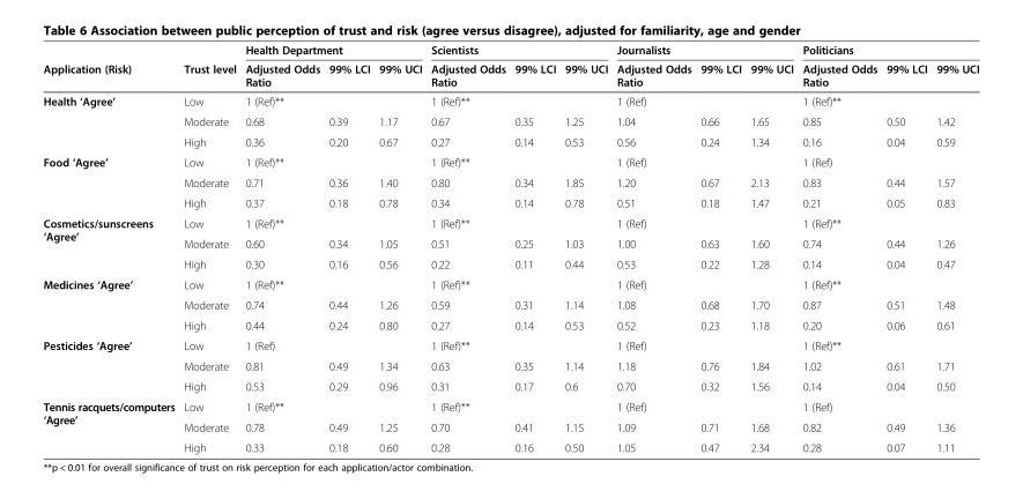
<table><thead><tr><td rowspan="2">Application (Risk)</td><td rowspan="2">Trust level</td><td colspan="3">Health Department</td><td colspan="3">Scientists</td><td colspan="3">Journalists</td><td colspan="3">Politicians</td></tr><tr><td>Adjusted Odds Ratio</td><td>99% LCI</td><td>99% UCI</td><td>Adjusted Odds Ratio</td><td>99% LCI</td><td>99% UCI</td><td>Adjusted Odds Ratio</td><td>99% LCI</td><td>99% UCI</td><td>Adjusted Odds Ratio</td><td>99% LCI</td><td>99% UCI</td></tr></thead><tbody><tr><td rowspan="3">Health ‘Agree’</td><td>Low</td><td>1 (Ref)**</td><td></td><td></td><td>1 (Ref)**</td><td></td><td></td><td>1 (Ref)</td><td></td><td></td><td>1 (Ref)**</td><td></td><td></td></tr><tr><td>Moderate</td><td>0.68</td><td>0.39</td><td>1.17</td><td>0.67</td><td>0.35</td><td>1.25</td><td>1.04</td><td>0.66</td><td>1.65</td><td>0.85</td><td>0.50</td><td>1.42</td></tr><tr><td>High</td><td>0.36</td><td>0.20</td><td>0.67</td><td>0.27</td><td>0.14</td><td>0.53</td><td>0.56</td><td>0.24</td><td>1.34</td><td>0.16</td><td>0.04</td><td>0.59</td></tr><tr><td rowspan="3">Food ‘Agree’</td><td>Low</td><td>1 (Ref)**</td><td></td><td></td><td>1 (Ref)**</td><td></td><td></td><td>1 (Ref)</td><td></td><td></td><td>1 (Ref)</td><td></td><td></td></tr><tr><td>Moderate</td><td>0.71</td><td>0.36</td><td>1.40</td><td>0.80</td><td>0.34</td><td>1.85</td><td>1.20</td><td>0.67</td><td>2.13</td><td>0.83</td><td>0.44</td><td>1.57</td></tr><tr><td>High</td><td>0.37</td><td>0.18</td><td>0.78</td><td>0.34</td><td>0.14</td><td>0.78</td><td>0.51</td><td>0.18</td><td>1.47</td><td>0.21</td><td>0.05</td><td>0.83</td></tr><tr><td rowspan="3">Cosmetics/sunscreens ‘Agree’</td><td>Low</td><td>1 (Ref)**</td><td></td><td></td><td>1 (Ref)**</td><td></td><td></td><td>1 (Ref)</td><td></td><td></td><td>1 (Ref)**</td><td></td><td></td></tr><tr><td>Moderate</td><td>0.60</td><td>0.34</td><td>1.05</td><td>0.51</td><td>0.25</td><td>1.03</td><td>1.00</td><td>0.63</td><td>1.60</td><td>0.74</td><td>0.44</td><td>1.26</td></tr><tr><td>High</td><td>0.30</td><td>0.16</td><td>0.56</td><td>0.22</td><td>0.11</td><td>0.44</td><td>0.53</td><td>0.22</td><td>1.28</td><td>0.14</td><td>0.04</td><td>0.47</td></tr><tr><td rowspan="3">Medicines ‘Agree’</td><td>Low</td><td>1 (Ref)**</td><td></td><td></td><td>1 (Ref)**</td><td></td><td></td><td>1 (Ref)</td><td></td><td></td><td>1 (Ref)**</td><td></td><td></td></tr><tr><td>Moderate</td><td>0.74</td><td>0.44</td><td>1.26</td><td>0.59</td><td>0.31</td><td>1.14</td><td>1.08</td><td>0.68</td><td>1.70</td><td>0.87</td><td>0.51</td><td>1.48</td></tr><tr><td>High</td><td>0.44</td><td>0.24</td><td>0.80</td><td>0.27</td><td>0.14</td><td>0.53</td><td>0.52</td><td>0.23</td><td>1.18</td><td>0.20</td><td>0.06</td><td>0.61</td></tr><tr><td rowspan="3">Pesticides ‘Agree’</td><td>Low</td><td>1 (Ref)</td><td></td><td></td><td>1 (Ref)**</td><td></td><td></td><td>1 (Ref)</td><td></td><td></td><td>1 (Ref)**</td><td></td><td></td></tr><tr><td>Moderate</td><td>0.81</td><td>0.49</td><td>1.34</td><td>0.63</td><td>0.35</td><td>1.14</td><td>1.18</td><td>0.76</td><td>1.84</td><td>1.02</td><td>0.61</td><td>1.71</td></tr><tr><td>High</td><td>0.53</td><td>0.29</td><td>0.96</td><td>0.31</td><td>0.17</td><td>0.6</td><td>0.70</td><td>0.32</td><td>1.56</td><td>0.14</td><td>0.04</td><td>0.50</td></tr><tr><td rowspan="3">Tennis racquets/computers ‘Agree’</td><td>Low</td><td>1 (Ref)**</td><td></td><td></td><td>1 (Ref)**</td><td></td><td></td><td>1 (Ref)</td><td></td><td></td><td>1 (Ref)</td><td></td><td></td></tr><tr><td>Moderate</td><td>0.78</td><td>0.49</td><td>1.25</td><td>0.70</td><td>0.41</td><td>1.15</td><td>1.09</td><td>0.71</td><td>1.68</td><td>0.82</td><td>0.49</td><td>1.36</td></tr><tr><td>High</td><td>0.33</td><td>0.18</td><td>0.60</td><td>0.28</td><td>0.16</td><td>0.50</td><td>1.05</td><td>0.47</td><td>2.34</td><td>0.28</td><td>0.07</td><td>1.11</td></tr></tbody></table>